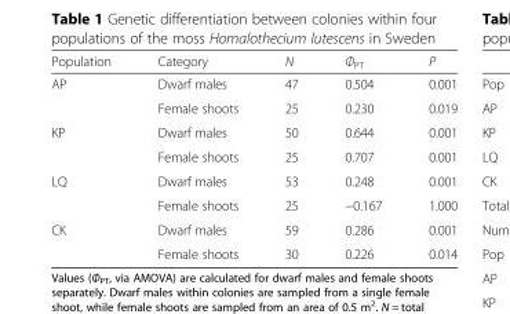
<table><thead><tr><td>Population</td><td>Category</td><td>N</td><td>Φ<sub>PT</sub></td><td>P</td></tr></thead><tbody><tr><td rowspan="2">AP</td><td>Dwarf males</td><td>47</td><td>0.504</td><td>0.001</td></tr><tr><td>Female shoots</td><td>25</td><td>0.230</td><td>0.019</td></tr><tr><td rowspan="2">KP</td><td>Dwarf males</td><td>50</td><td>0.644</td><td>0.001</td></tr><tr><td>Female shoots</td><td>25</td><td>0.707</td><td>0.001</td></tr><tr><td rowspan="2">LQ</td><td>Dwarf males</td><td>53</td><td>0.248</td><td>0.001</td></tr><tr><td>Female shoots</td><td>25</td><td>−0.167</td><td>1.000</td></tr><tr><td rowspan="2">CK</td><td>Dwarf males</td><td>59</td><td>0.286</td><td>0.001</td></tr><tr><td>Female shoots</td><td>30</td><td>0.226</td><td>0.014</td></tr></tbody></table>